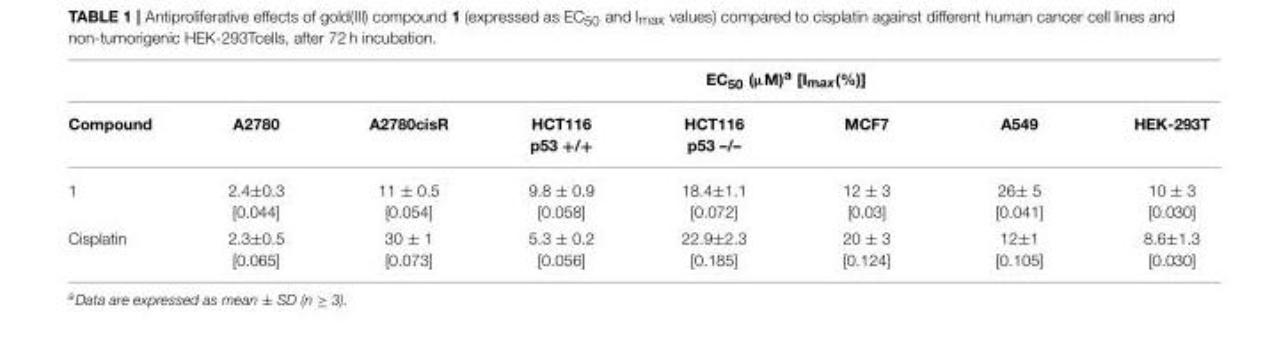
<table><thead><tr><td rowspan="2">Compound</td><td rowspan="2">A2780</td><td colspan="6">EC50 (µM)a [Imax(%)]</td></tr><tr><td>A2780cisR</td><td>HCT116 p53 +/+</td><td>HCT116 p53 –/–</td><td>MCF7</td><td>A549</td><td>HEK-293T</td></tr></thead><tbody><tr><td>1</td><td>2.4±0.3 [0.044]</td><td>11 ± 0.5 [0.054]</td><td>9.8 ± 0.9 [0.058]</td><td>18.4±1.1 [0.072]</td><td>12 ± 3 [0.03]</td><td>26± 5 [0.041]</td><td>10 ± 3 [0.030]</td></tr><tr><td>Cisplatin</td><td>2.3±0.5 [0.065]</td><td>30 ± 1 [0.073]</td><td>5.3 ± 0.2 [0.056]</td><td>22.9±2.3 [0.185]</td><td>20 ± 3 [0.124]</td><td>12±1 [0.105]</td><td>8.6±1.3 [0.030]</td></tr></tbody></table>